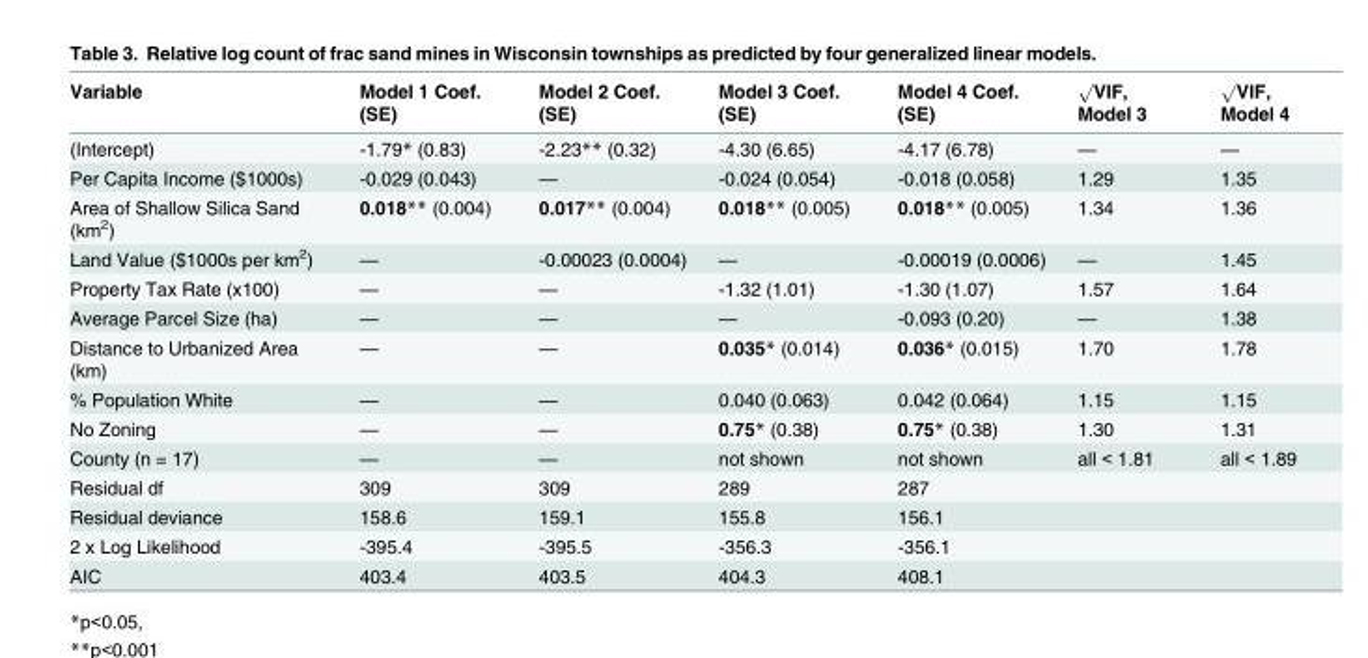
<table><thead><tr><td>Variable</td><td>Model 1 Coef. (SE)</td><td>Model 2 Coef. (SE)</td><td>Model 3 Coef. (SE)</td><td>Model 4 Coef. (SE)</td><td>√VIF, Model 3</td><td>√VIF, Model 4</td></tr></thead><tbody><tr><td>(Intercept)</td><td>-1.79* (0.83)</td><td>-2.23** (0.32)</td><td>-4.30 (6.65)</td><td>-4.17 (6.78)</td><td>—</td><td>—</td></tr><tr><td>Per Capita Income ($1000s)</td><td>-0.029 (0.043)</td><td>—</td><td>-0.024 (0.054)</td><td>-0.018 (0.058)</td><td>1.29</td><td>1.35</td></tr><tr><td>Area of Shallow Silica Sand (km<sup>2</sup>)</td><td>0.018** (0.004)</td><td>0.017** (0.004)</td><td>0.018** (0.005)</td><td>0.018** (0.005)</td><td>1.34</td><td>1.36</td></tr><tr><td>Land Value ($1000s per km<sup>2</sup>)</td><td>—</td><td>-0.00023 (0.0004)</td><td>—</td><td>-0.00019 (0.0006)</td><td>—</td><td>1.45</td></tr><tr><td>Property Tax Rate (x100)</td><td>—</td><td>—</td><td>-1.32 (1.01)</td><td>-1.30 (1.07)</td><td>1.57</td><td>1.64</td></tr><tr><td>Average Parcel Size (ha)</td><td>—</td><td>—</td><td>—</td><td>-0.093 (0.20)</td><td>—</td><td>1.38</td></tr><tr><td>Distance to Urbanized Area (km)</td><td>—</td><td>—</td><td>0.035* (0.014)</td><td>0.036* (0.015)</td><td>1.70</td><td>1.78</td></tr><tr><td>% Population White</td><td>—</td><td>—</td><td>0.040 (0.063)</td><td>0.042 (0.064)</td><td>1.15</td><td>1.15</td></tr><tr><td>No Zoning</td><td>—</td><td>—</td><td>0.75* (0.38)</td><td>0.75* (0.38)</td><td>1.30</td><td>1.31</td></tr><tr><td>County (n = 17)</td><td>—</td><td>—</td><td>not shown</td><td>not shown</td><td>all &lt; 1.81</td><td>all &lt; 1.89</td></tr><tr><td>Residual df</td><td>309</td><td>309</td><td>289</td><td>287</td><td></td><td></td></tr><tr><td>Residual deviance</td><td>158.6</td><td>159.1</td><td>155.8</td><td>156.1</td><td></td><td></td></tr><tr><td>2 x Log Likelihood</td><td>-395.4</td><td>-395.5</td><td>-356.3</td><td>-356.1</td><td></td><td></td></tr><tr><td>AIC</td><td>403.4</td><td>403.5</td><td>404.3</td><td>408.1</td><td></td><td></td></tr></tbody></table>